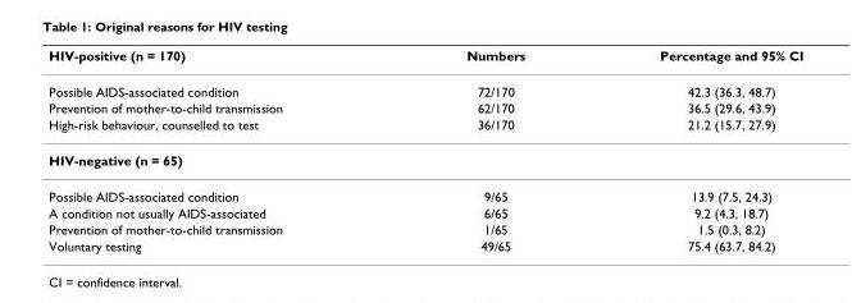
<table><thead><tr><td>HIV-positive (n = 170)</td><td>Numbers</td><td>Percentage and 95% CI</td></tr></thead><tbody><tr><td>Possible AIDS-associated condition</td><td>72/170</td><td>42.3 (36.3, 48.7)</td></tr><tr><td>Prevention of mother-to-child transmission</td><td>62/170</td><td>36.5 (29.6, 43.9)</td></tr><tr><td>High-risk behaviour, counselled to test</td><td>36/170</td><td>21.2 (15.7, 27.9)</td></tr><tr><td colspan="3">HIV-negative (n = 65)</td></tr><tr><td>Possible AIDS-associated condition</td><td>9/65</td><td>13.9 (7.5, 24.3)</td></tr><tr><td>A condition not usually AIDS-associated</td><td>6/65</td><td>9.2 (4.3, 18.7)</td></tr><tr><td>Prevention of mother-to-child transmission</td><td>1/65</td><td>1.5 (0.3, 8.2)</td></tr><tr><td>Voluntary testing</td><td>49/65</td><td>75.4 (63.7, 84.2)</td></tr></tbody></table>